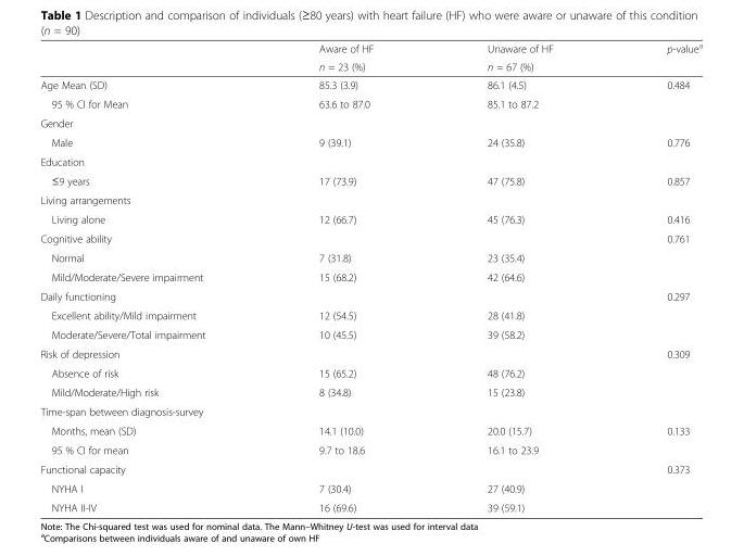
<table><thead><tr><td rowspan="2"></td><td rowspan="2">Aware of HF n = 23 (%)</td><td rowspan="2">Unaware of HF n = 67 (%)</td><td rowspan="2">p-value<sup>a</sup></td></tr><tr></tr></thead><tbody><tr><td>Age Mean (SD)</td><td>85.3 (3.9)</td><td>86.1 (4.5)</td><td>0.484</td></tr><tr><td>95 % CI for Mean</td><td>63.6 to 87.0</td><td>85.1 to 87.2</td><td></td></tr><tr><td colspan="4">Gender</td></tr><tr><td>Male</td><td>9 (39.1)</td><td>24 (35.8)</td><td>0.776</td></tr><tr><td colspan="4">Education</td></tr><tr><td>≤9 years</td><td>17 (73.9)</td><td>47 (75.8)</td><td>0.857</td></tr><tr><td colspan="4">Living arrangements</td></tr><tr><td>Living alone</td><td>12 (66.7)</td><td>45 (76.3)</td><td>0.416</td></tr><tr><td>Cognitive ability</td><td></td><td></td><td>0.761</td></tr><tr><td>Normal</td><td>7 (31.8)</td><td>23 (35.4)</td><td></td></tr><tr><td>Mild/Moderate/Severe impairment</td><td>15 (68.2)</td><td>42 (64.6)</td><td></td></tr><tr><td>Daily functioning</td><td></td><td></td><td>0.297</td></tr><tr><td>Excellent ability/Mild impairment</td><td>12 (54.5)</td><td>28 (41.8)</td><td></td></tr><tr><td>Moderate/Severe/Total impairment</td><td>10 (45.5)</td><td>39 (58.2)</td><td></td></tr><tr><td>Risk of depression</td><td></td><td></td><td>0.309</td></tr><tr><td>Absence of risk</td><td>15 (65.2)</td><td>48 (76.2)</td><td></td></tr><tr><td>Mild/Moderate/High risk</td><td>8 (34.8)</td><td>15 (23.8)</td><td></td></tr><tr><td colspan="4">Time-span between diagnosis-survey</td></tr><tr><td>Months, mean (SD)</td><td>14.1 (10.0)</td><td>20.0 (15.7)</td><td>0.133</td></tr><tr><td>95 % CI for mean</td><td>9.7 to 18.6</td><td>16.1 to 23.9</td><td></td></tr><tr><td>Functional capacity</td><td></td><td></td><td>0.373</td></tr><tr><td>NYHA I</td><td>7 (30.4)</td><td>27 (40.9)</td><td></td></tr><tr><td>NYHA II-IV</td><td>16 (69.6)</td><td>39 (59.1)</td><td></td></tr></tbody></table>